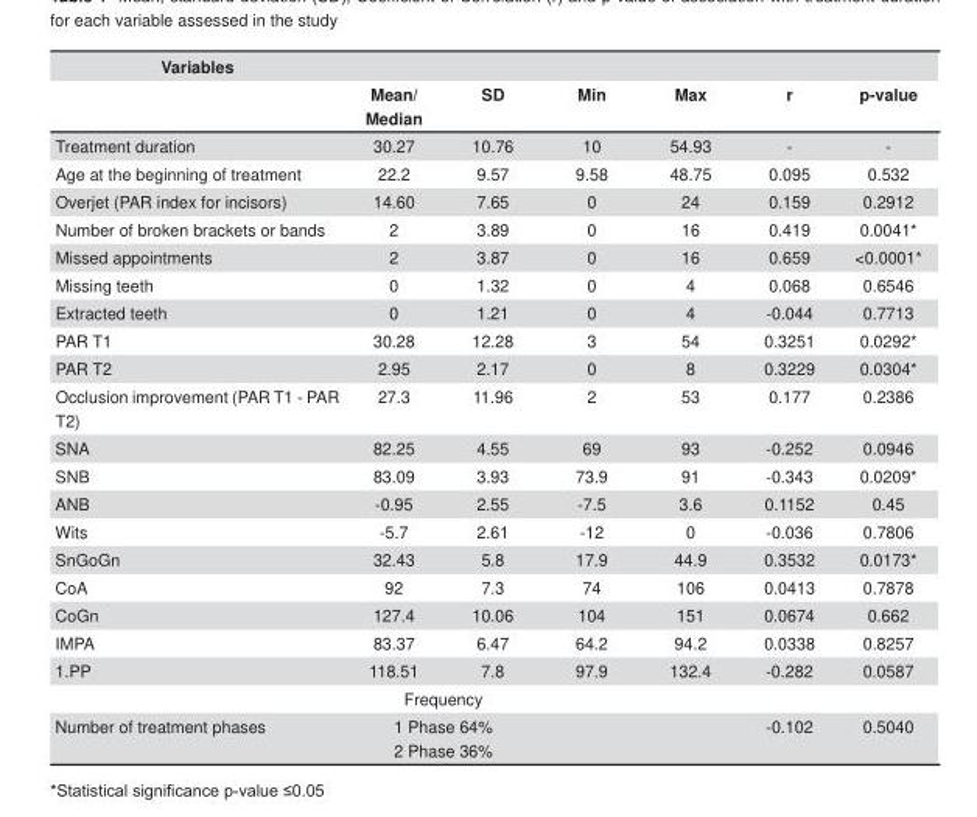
<table><thead><tr><td rowspan="2">Variables</td><td rowspan="2">Mean/ Median</td><td rowspan="2">SD</td><td rowspan="2">Min</td><td rowspan="2">Max</td><td rowspan="2">r</td><td rowspan="2">p-value</td></tr><tr></tr></thead><tbody><tr><td>Treatment duration</td><td>30.27</td><td>10.76</td><td>10</td><td>54.93</td><td>-</td><td>-</td></tr><tr><td>Age at the beginning of treatment</td><td>22.2</td><td>9.57</td><td>9.58</td><td>48.75</td><td>0.095</td><td>0.532</td></tr><tr><td>Overjet (PAR index for incisors)</td><td>14.60</td><td>7.65</td><td>0</td><td>24</td><td>0.159</td><td>0.2912</td></tr><tr><td>Number of broken brackets or bands</td><td>2</td><td>3.89</td><td>0</td><td>16</td><td>0.419</td><td>0.0041*</td></tr><tr><td>Missed appointments</td><td>2</td><td>3.87</td><td>0</td><td>16</td><td>0.659</td><td>&lt;0.0001*</td></tr><tr><td>Missing teeth</td><td>0</td><td>1.32</td><td>0</td><td>4</td><td>0.068</td><td>0.6546</td></tr><tr><td>Extracted teeth</td><td>0</td><td>1.21</td><td>0</td><td>4</td><td>-0.044</td><td>0.7713</td></tr><tr><td>PAR T1</td><td>30.28</td><td>12.28</td><td>3</td><td>54</td><td>0.3251</td><td>0.0292*</td></tr><tr><td>PAR T2</td><td>2.95</td><td>2.17</td><td>0</td><td>8</td><td>0.3229</td><td>0.0304*</td></tr><tr><td>Occlusion improvement (PAR T1 - PAR T2)</td><td>27.3</td><td>11.96</td><td>2</td><td>53</td><td>0.177</td><td>0.2386</td></tr><tr><td>SNA</td><td>82.25</td><td>4.55</td><td>69</td><td>93</td><td>-0.252</td><td>0.0946</td></tr><tr><td>SNB</td><td>83.09</td><td>3.93</td><td>73.9</td><td>91</td><td>-0.343</td><td>0.0209*</td></tr><tr><td>ANB</td><td>-0.95</td><td>2.55</td><td>-7.5</td><td>3.6</td><td>0.1152</td><td>0.45</td></tr><tr><td>Wits</td><td>-5.7</td><td>2.61</td><td>-12</td><td>0</td><td>-0.036</td><td>0.7806</td></tr><tr><td>SnGoGn</td><td>32.43</td><td>5.8</td><td>17.9</td><td>44.9</td><td>0.3532</td><td>0.0173*</td></tr><tr><td>CoA</td><td>92</td><td>7.3</td><td>74</td><td>106</td><td>0.0413</td><td>0.7878</td></tr><tr><td>CoGn</td><td>127.4</td><td>10.06</td><td>104</td><td>151</td><td>0.0674</td><td>0.662</td></tr><tr><td>IMPA</td><td>83.37</td><td>6.47</td><td>64.2</td><td>94.2</td><td>0.0338</td><td>0.8257</td></tr><tr><td rowspan="2">1.PP</td><td>118.51</td><td>7.8</td><td>97.9</td><td>132.4</td><td>-0.282</td><td>0.0587</td></tr><tr><td colspan="2">Frequency</td><td></td><td></td><td></td><td></td></tr><tr><td>Number of treatment phases</td><td colspan="2">1 Phase 64% 2 Phase 36%</td><td></td><td></td><td>-0.102</td><td>0.5040</td></tr></tbody></table>